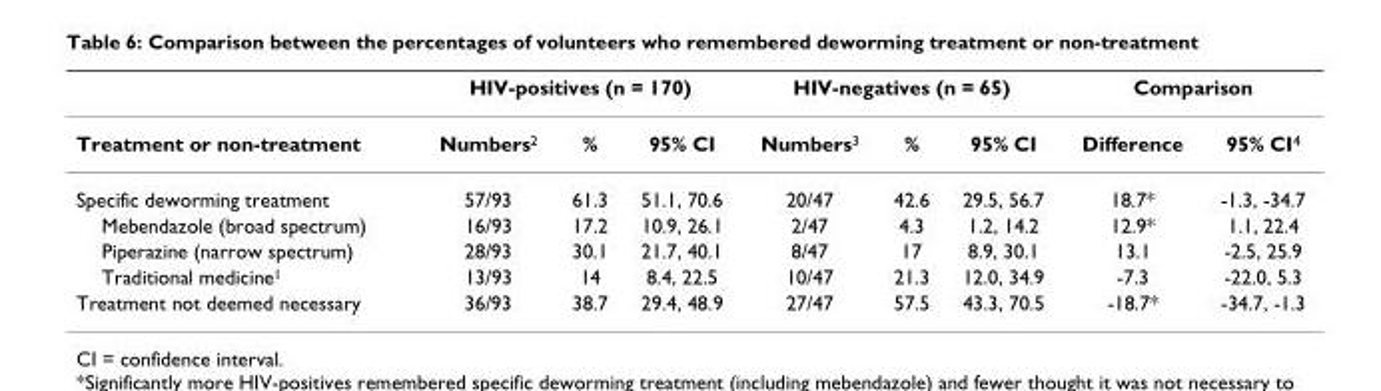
<table><thead><tr><td rowspan="2">Treatment or non-treatment</td><td colspan="3">HIV-positives (n = 170)</td><td colspan="3">HIV-negatives (n = 65)</td><td colspan="2">Comparison</td></tr><tr><td>Numbers<sup>2</sup></td><td>%</td><td>95% CI</td><td>Numbers<sup>3</sup></td><td>%</td><td>95% CI</td><td>Difference</td><td>95% CI<sup>4</sup></td></tr></thead><tbody><tr><td>Specific deworming treatment</td><td>57/93</td><td>61.3</td><td>51.1, 70.6</td><td>20/47</td><td>42.6</td><td>29.5, 56.7</td><td>18.7*</td><td>-1.3, -34.7</td></tr><tr><td>Mebendazole (broad spectrum)</td><td>16/93</td><td>17.2</td><td>10.9, 26.1</td><td>2/47</td><td>4.3</td><td>1.2, 14.2</td><td>12.9*</td><td>1.1, 22.4</td></tr><tr><td>Piperazine (narrow spectrum)</td><td>28/93</td><td>30.1</td><td>21.7, 40.1</td><td>8/47</td><td>17</td><td>8.9, 30.1</td><td>13.1</td><td>-2.5, 25.9</td></tr><tr><td>Traditional medicine<sup>1</sup></td><td>13/93</td><td>14</td><td>8.4, 22.5</td><td>10/47</td><td>21.3</td><td>12.0, 34.9</td><td>-7.3</td><td>-22.0, 5.3</td></tr><tr><td>Treatment not deemed necessary</td><td>36/93</td><td>38.7</td><td>29.4, 48.9</td><td>27/47</td><td>57.5</td><td>43.3, 70.5</td><td>-18.7*</td><td>-34.7, -1.3</td></tr></tbody></table>